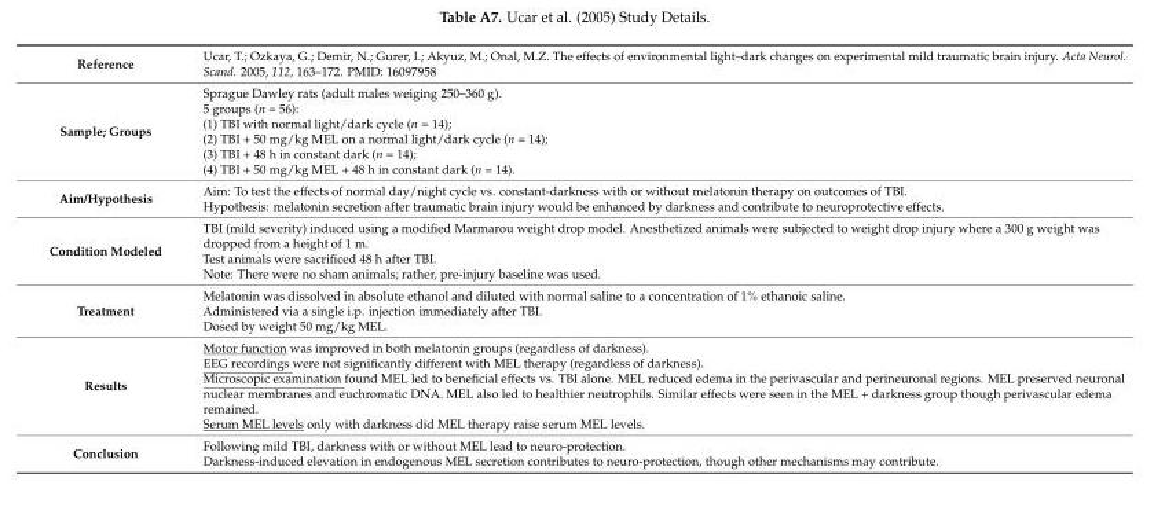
<table><tbody><tr><td>Reference</td><td>Ucar, T.; Ozkaya, G.; Demir, N.; Gurer, I.; Akyuz, M.; Onal, M.Z. The effects of environmental light–dark changes on experimental mild traumatic brain injury. Acta Neurol. Scand. 2005, 112, 163–172. PMID: 16097958</td></tr><tr><td>Sample; Groups</td><td>Sprague Dawley rats (adult males weiging 250–360 g). 5 groups (n = 56): (1) TBI with normal light/dark cycle (n = 14); (2) TBI + 50 mg/kg MEL on a normal light/dark cycle (n = 14); (3) TBI + 48 h in constant dark (n = 14); (4) TBI + 50 mg/kg MEL + 48 h in constant dark (n = 14).</td></tr><tr><td>Aim/Hypothesis</td><td>Aim: To test the effects of normal day/night cycle vs. constant-darkness with or without melatonin therapy on outcomes of TBI. Hypothesis: melatonin secretion after traumatic brain injury would be enhanced by darkness and contribute to neuroprotective effects.</td></tr><tr><td>Condition Modeled</td><td>TBI (mild severity) induced using a modified Marmarou weight drop model. Anesthetized animals were subjected to weight drop injury where a 300 g weight was dropped from a height of 1 m. Test animals were sacrificed 48 h after TBI. Note: There were no sham animals; rather, pre-injury baseline was used.</td></tr><tr><td>Treatment</td><td>Melatonin was dissolved in absolute ethanol and diluted with normal saline to a concentration of 1% ethanoic saline. Administered via a single i.p. injection immediately after TBI. Dosed by weight 50 mg/kg MEL.</td></tr><tr><td>Results</td><td>Motor function was improved in both melatonin groups (regardless of darkness). EEG recordings were not significantly different with MEL therapy (regardless of darkness). Microscopic examination found MEL led to beneficial effects vs. TBI alone. MEL reduced edema in the perivascular and perineuronal regions. MEL preserved neuronal nuclear membranes and euchromatic DNA. MEL also led to healthier neutrophils. Similar effects were seen in the MEL + darkness group though perivascular edema remained. Serum MEL levels only with darkness did MEL therapy raise serum MEL levels.</td></tr><tr><td>Conclusion</td><td>Following mild TBI, darkness with or without MEL lead to neuro-protection. Darkness-induced elevation in endogenous MEL secretion contributes to neuro-protection, though other mechanisms may contribute.</td></tr></tbody></table>